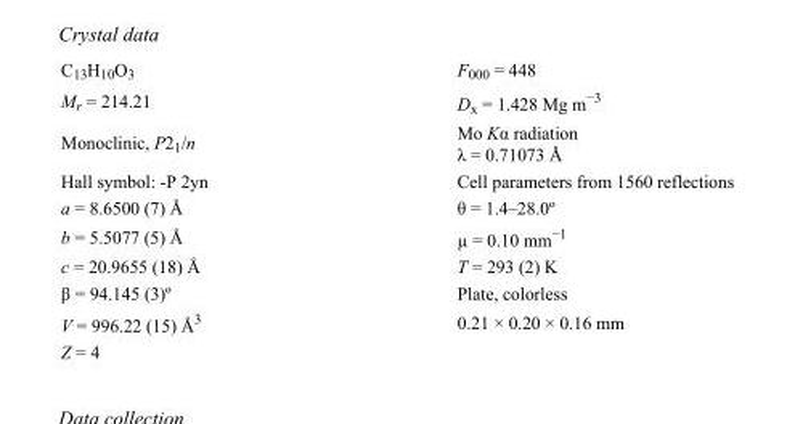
<table><tbody><tr><td>C<sub>13</sub>H<sub>10</sub>O<sub>3</sub></td><td>F<sub>000</sub> = 448</td></tr><tr><td>M<sub>r</sub> = 214.21</td><td>D<sub>x</sub> = 1.428 Mg m<sup>−3</sup></td></tr><tr><td>Monoclinic, P2<sub>1</sub>/n</td><td>Mo Kα radiation λ = 0.71073 Å</td></tr><tr><td>Hall symbol: -P 2yn</td><td>Cell parameters from 1560 reflections</td></tr><tr><td>a = 8.6500 (7) Å</td><td>θ = 1.4–28.0º</td></tr><tr><td>b = 5.5077 (5) Å</td><td>µ = 0.10 mm<sup>−1</sup></td></tr><tr><td>c = 20.9655 (18) Å</td><td>T = 293 (2) K</td></tr><tr><td>β = 94.145 (3)º</td><td>Plate, colorless</td></tr><tr><td>V = 996.22 (15) Å<sup>3</sup></td><td>0.21 × 0.20 × 0.16 mm</td></tr><tr><td>Z = 4</td><td></td></tr></tbody></table>